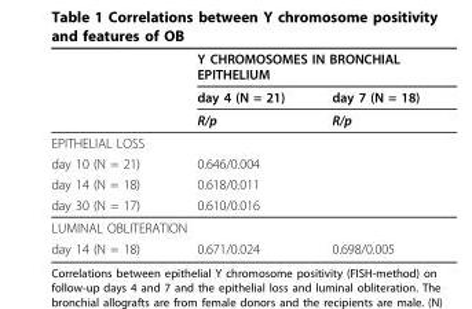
<table><thead><tr><td rowspan="3"></td><td colspan="2">Y CHROMOSOMES IN BRONCHIAL EPITHELIUM</td></tr><tr><td rowspan="2">day 4 (N = 21) R/p</td><td rowspan="2">day 7 (N = 18) R/p</td></tr><tr></tr></thead><tbody><tr><td colspan="3">EPITHELIAL LOSS</td></tr><tr><td>day 10 (N = 21)</td><td>0.646/0.004</td><td></td></tr><tr><td>day 14 (N = 18)</td><td>0.618/0.011</td><td></td></tr><tr><td>day 30 (N = 17)</td><td>0.610/0.016</td><td></td></tr><tr><td colspan="3">LUMINAL OBLITERATION</td></tr><tr><td>day 14 (N = 18)</td><td>0.671/0.024</td><td>0.698/0.005</td></tr></tbody></table>